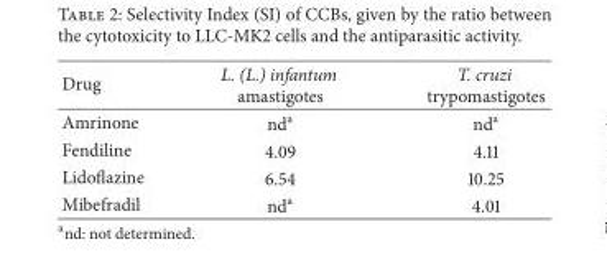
<table><thead><tr><td>Drug</td><td>L. (L.) infantum amastigotes</td><td>T. cruzi trypomastigotes</td></tr></thead><tbody><tr><td>Amrinone</td><td>nd<sup>a</sup></td><td>nd<sup>a</sup></td></tr><tr><td>Fendiline</td><td>4.09</td><td>4.11</td></tr><tr><td>Lidoflazine</td><td>6.54</td><td>10.25</td></tr><tr><td>Mibefradil</td><td>nd<sup>a</sup></td><td>4.01</td></tr></tbody></table>